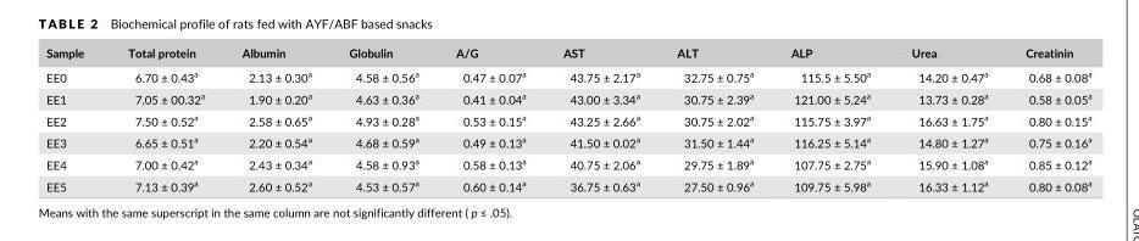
<table><thead><tr><td>Sample</td><td>Total protein</td><td>Albumin</td><td>Globulin</td><td>A/G</td><td>AST</td><td>ALT</td><td>ALP</td><td>Urea</td><td>Creatinin</td></tr></thead><tbody><tr><td>EE0</td><td>6.70 ± 0.43<sup>a</sup></td><td>2.13 ± 0.30<sup>a</sup></td><td>4.58 ± 0.56<sup>a</sup></td><td>0.47 ± 0.07<sup>a</sup></td><td>43.75 ± 2.17<sup>a</sup></td><td>32.75 ± 0.75<sup>a</sup></td><td>115.5 ± 5.50<sup>a</sup></td><td>14.20 ± 0.47<sup>a</sup></td><td>0.68 ± 0.08<sup>a</sup></td></tr><tr><td>EE1</td><td>7.05 ± 00.32<sup>a</sup></td><td>1.90 ± 0.20<sup>a</sup></td><td>4.63 ± 0.36<sup>a</sup></td><td>0.41 ± 0.04<sup>a</sup></td><td>43.00 ± 3.34<sup>a</sup></td><td>30.75 ± 2.39<sup>a</sup></td><td>121.00 ± 5.24<sup>a</sup></td><td>13.73 ± 0.28<sup>a</sup></td><td>0.58 ± 0.05<sup>a</sup></td></tr><tr><td>EE2</td><td>7.50 ± 0.52<sup>a</sup></td><td>2.58 ± 0.65<sup>a</sup></td><td>4.93 ± 0.28<sup>a</sup></td><td>0.53 ± 0.15<sup>a</sup></td><td>43.25 ± 2.66<sup>a</sup></td><td>30.75 ± 2.02<sup>a</sup></td><td>115.75 ± 3.97<sup>a</sup></td><td>16.63 ± 1.75<sup>a</sup></td><td>0.80 ± 0.15<sup>a</sup></td></tr><tr><td>EE3</td><td>6.65 ± 0.51<sup>a</sup></td><td>2.20 ± 0.54<sup>a</sup></td><td>4.68 ± 0.59<sup>a</sup></td><td>0.49 ± 0.13<sup>a</sup></td><td>41.50 ± 0.02<sup>a</sup></td><td>31.50 ± 1.44<sup>a</sup></td><td>116.25 ± 5.14<sup>a</sup></td><td>14.80 ± 1.27<sup>a</sup></td><td>0.75 ± 0.16<sup>a</sup></td></tr><tr><td>EE4</td><td>7.00 ± 0.42<sup>a</sup></td><td>2.43 ± 0.34<sup>a</sup></td><td>4.58 ± 0.93<sup>a</sup></td><td>0.58 ± 0.13<sup>a</sup></td><td>40.75 ± 2.06<sup>a</sup></td><td>29.75 ± 1.89<sup>a</sup></td><td>107.75 ± 2.75<sup>a</sup></td><td>15.90 ± 1.08<sup>a</sup></td><td>0.85 ± 0.12<sup>a</sup></td></tr><tr><td>EE5</td><td>7.13 ± 0.39<sup>a</sup></td><td>2.60 ± 0.52<sup>a</sup></td><td>4.53 ± 0.57<sup>a</sup></td><td>0.60 ± 0.14<sup>a</sup></td><td>36.75 ± 0.63<sup>a</sup></td><td>27.50 ± 0.96<sup>a</sup></td><td>109.75 ± 5.98<sup>a</sup></td><td>16.33 ± 1.12<sup>a</sup></td><td>0.80 ± 0.08<sup>a</sup></td></tr></tbody></table>